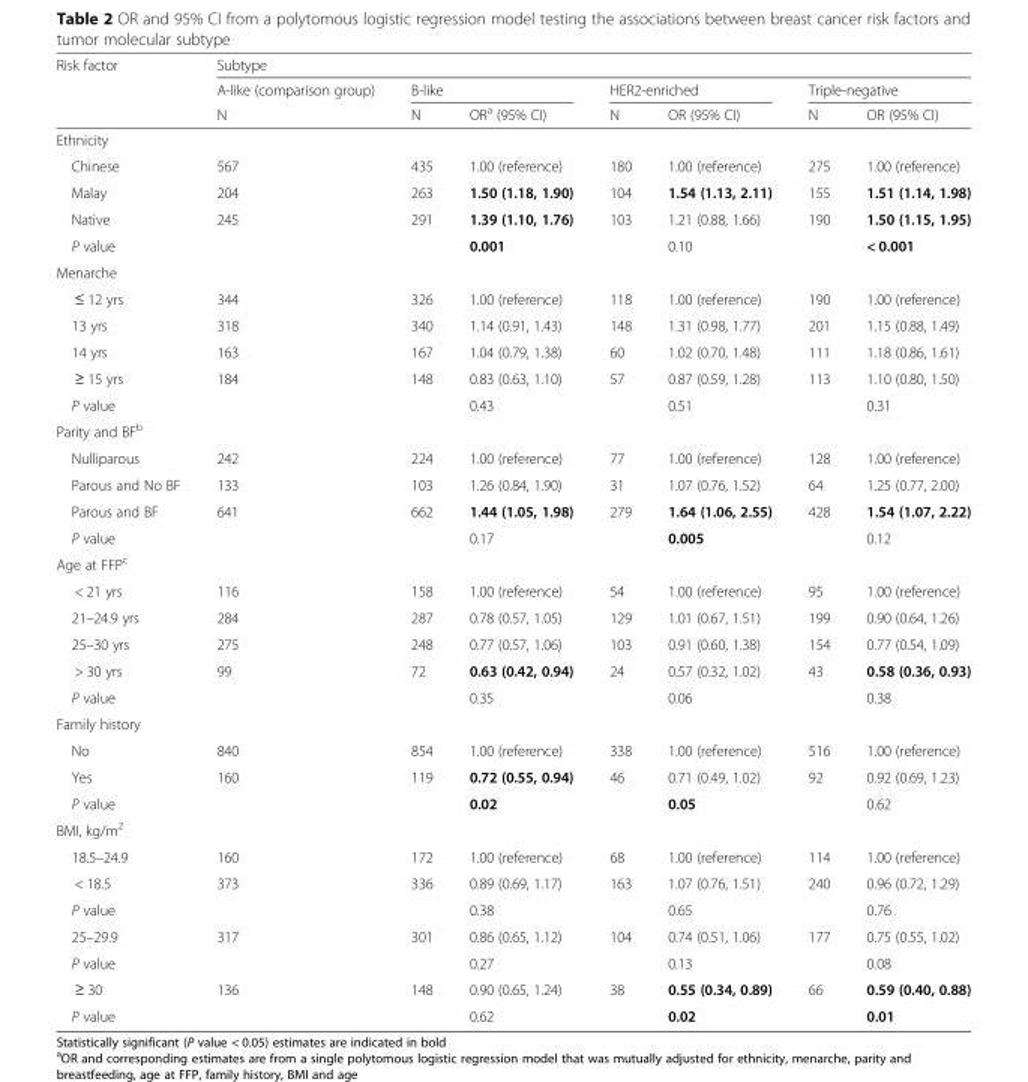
<table><thead><tr><td rowspan="3">Risk factor</td><td colspan="7">Subtype</td></tr><tr><td rowspan="2">A-like (comparison group) N</td><td colspan="2">B-like</td><td colspan="2">HER2-enriched</td><td colspan="2">Triple-negative</td></tr><tr><td>N</td><td>OR<sup>a</sup> (95% CI)</td><td>N</td><td>OR (95% CI)</td><td>N</td><td>OR (95% CI)</td></tr></thead><tbody><tr><td colspan="8">Ethnicity</td></tr><tr><td>Chinese</td><td>567</td><td>435</td><td>1.00 (reference)</td><td>180</td><td>1.00 (reference)</td><td>275</td><td>1.00 (reference)</td></tr><tr><td>Malay</td><td>204</td><td>263</td><td>1.50 (1.18, 1.90)</td><td>104</td><td>1.54 (1.13, 2.11)</td><td>155</td><td>1.51 (1.14, 1.98)</td></tr><tr><td>Native</td><td>245</td><td>291</td><td>1.39 (1.10, 1.76)</td><td>103</td><td>1.21 (0.88, 1.66)</td><td>190</td><td>1.50 (1.15, 1.95)</td></tr><tr><td>P value</td><td></td><td></td><td>0.001</td><td></td><td>0.10</td><td></td><td>&lt; 0.001</td></tr><tr><td colspan="8">Menarche</td></tr><tr><td>≤ 12 yrs</td><td>344</td><td>326</td><td>1.00 (reference)</td><td>118</td><td>1.00 (reference)</td><td>190</td><td>1.00 (reference)</td></tr><tr><td>13 yrs</td><td>318</td><td>340</td><td>1.14 (0.91, 1.43)</td><td>148</td><td>1.31 (0.98, 1.77)</td><td>201</td><td>1.15 (0.88, 1.49)</td></tr><tr><td>14 yrs</td><td>163</td><td>167</td><td>1.04 (0.79, 1.38)</td><td>60</td><td>1.02 (0.70, 1.48)</td><td>111</td><td>1.18 (0.86, 1.61)</td></tr><tr><td>≥ 15 yrs</td><td>184</td><td>148</td><td>0.83 (0.63, 1.10)</td><td>57</td><td>0.87 (0.59, 1.28)</td><td>113</td><td>1.10 (0.80, 1.50)</td></tr><tr><td>P value</td><td></td><td></td><td>0.43</td><td></td><td>0.51</td><td></td><td>0.31</td></tr><tr><td colspan="8">Parity and BF<sup>b</sup></td></tr><tr><td>Nulliparous</td><td>242</td><td>224</td><td>1.00 (reference)</td><td>77</td><td>1.00 (reference)</td><td>128</td><td>1.00 (reference)</td></tr><tr><td>Parous and No BF</td><td>133</td><td>103</td><td>1.26 (0.84, 1.90)</td><td>31</td><td>1.07 (0.76, 1.52)</td><td>64</td><td>1.25 (0.77, 2.00)</td></tr><tr><td>Parous and BF</td><td>641</td><td>662</td><td>1.44 (1.05, 1.98)</td><td>279</td><td>1.64 (1.06, 2.55)</td><td>428</td><td>1.54 (1.07, 2.22)</td></tr><tr><td>P value</td><td></td><td></td><td>0.17</td><td></td><td>0.005</td><td></td><td>0.12</td></tr><tr><td colspan="8">Age at FFP<sup>c</sup></td></tr><tr><td>&lt; 21 yrs</td><td>116</td><td>158</td><td>1.00 (reference)</td><td>54</td><td>1.00 (reference)</td><td>95</td><td>1.00 (reference)</td></tr><tr><td>21–24.9 yrs</td><td>284</td><td>287</td><td>0.78 (0.57, 1.05)</td><td>129</td><td>1.01 (0.67, 1.51)</td><td>199</td><td>0.90 (0.64, 1.26)</td></tr><tr><td>25–30 yrs</td><td>275</td><td>248</td><td>0.77 (0.57, 1.06)</td><td>103</td><td>0.91 (0.60, 1.38)</td><td>154</td><td>0.77 (0.54, 1.09)</td></tr><tr><td>&gt; 30 yrs</td><td>99</td><td>72</td><td>0.63 (0.42, 0.94)</td><td>24</td><td>0.57 (0.32, 1.02)</td><td>43</td><td>0.58 (0.36, 0.93)</td></tr><tr><td>P value</td><td></td><td></td><td>0.35</td><td></td><td>0.06</td><td></td><td>0.38</td></tr><tr><td colspan="8">Family history</td></tr><tr><td>No</td><td>840</td><td>854</td><td>1.00 (reference)</td><td>338</td><td>1.00 (reference)</td><td>516</td><td>1.00 (reference)</td></tr><tr><td>Yes</td><td>160</td><td>119</td><td>0.72 (0.55, 0.94)</td><td>46</td><td>0.71 (0.49, 1.02)</td><td>92</td><td>0.92 (0.69, 1.23)</td></tr><tr><td>P value</td><td></td><td></td><td>0.02</td><td></td><td>0.05</td><td></td><td>0.62</td></tr><tr><td colspan="8">BMI, kg/m<sup>2</sup></td></tr><tr><td>18.5–24.9</td><td>160</td><td>172</td><td>1.00 (reference)</td><td>68</td><td>1.00 (reference)</td><td>114</td><td>1.00 (reference)</td></tr><tr><td>&lt; 18.5</td><td>373</td><td>336</td><td>0.89 (0.69, 1.17)</td><td>163</td><td>1.07 (0.76, 1.51)</td><td>240</td><td>0.96 (0.72, 1.29)</td></tr><tr><td>P value</td><td></td><td></td><td>0.38</td><td></td><td>0.65</td><td></td><td>0.76</td></tr><tr><td>25–29.9</td><td>317</td><td>301</td><td>0.86 (0.65, 1.12)</td><td>104</td><td>0.74 (0.51, 1.06)</td><td>177</td><td>0.75 (0.55, 1.02)</td></tr><tr><td>P value</td><td></td><td></td><td>0.27</td><td></td><td>0.13</td><td></td><td>0.08</td></tr><tr><td>≥ 30</td><td>136</td><td>148</td><td>0.90 (0.65, 1.24)</td><td>38</td><td>0.55 (0.34, 0.89)</td><td>66</td><td>0.59 (0.40, 0.88)</td></tr><tr><td>P value</td><td></td><td></td><td>0.62</td><td></td><td>0.02</td><td></td><td>0.01</td></tr></tbody></table>